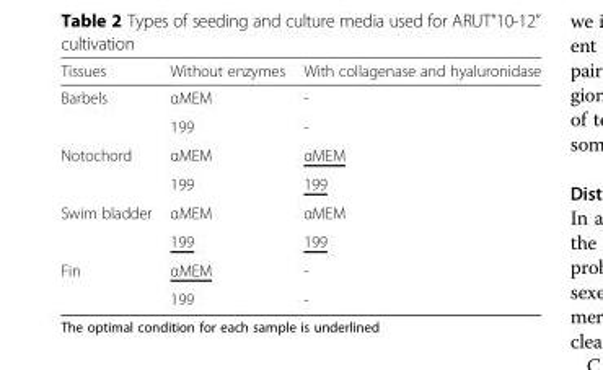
<table><thead><tr><td>Tissues</td><td>Without enzymes</td><td>With collagenase and hyaluronidase</td></tr></thead><tbody><tr><td rowspan="2">Barbels</td><td>αMEM</td><td>-</td></tr><tr><td>199</td><td>-</td></tr><tr><td rowspan="2">Notochord</td><td>αMEM</td><td>αMEM</td></tr><tr><td>199</td><td>199</td></tr><tr><td rowspan="2">Swim bladder</td><td>αMEM</td><td>αMEM</td></tr><tr><td>199</td><td>199</td></tr><tr><td rowspan="2">Fin</td><td>αMEM</td><td>-</td></tr><tr><td>199</td><td>-</td></tr></tbody></table>